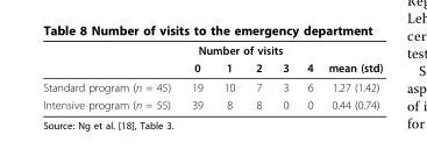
<table><thead><tr><td rowspan="2"></td><td colspan="4">Number of visits</td><td rowspan="2">4</td><td rowspan="2">mean (std)</td></tr><tr><td>0</td><td>1</td><td>2</td><td>3</td></tr></thead><tbody><tr><td>Standard program (n = 45)</td><td>19</td><td>10</td><td>7</td><td>3</td><td>6</td><td>1.27 (1.42)</td></tr><tr><td>Intensive program (n = 55)</td><td>39</td><td>8</td><td>8</td><td>0</td><td>0</td><td>0.44 (0.74)</td></tr></tbody></table>